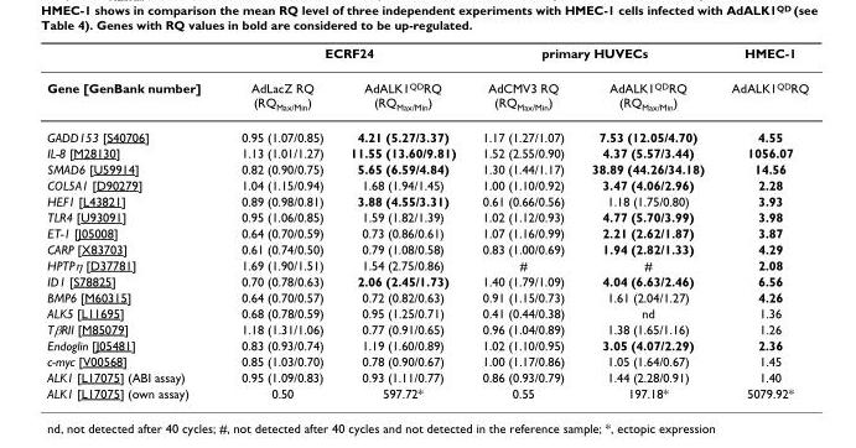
<table><thead><tr><td rowspan="2">Gene [GenBank number]</td><td colspan="2">ECRF24</td><td colspan="2">primary HUVECs</td><td rowspan="2">HMEC-1 AdALK1QDRQ</td></tr><tr><td>AdLacZ RQ (RQMax/Min)</td><td>AdALK1QDRQ (RQMax/Min)</td><td>AdCMV3 RQ (RQMax/Min)</td><td>AdALK1QDRQ (RQMax/Min)</td></tr></thead><tbody><tr><td>GADD153 [S40706]</td><td>0.95 (1.07/0.85)</td><td>4.21 (5.27/3.37)</td><td>1.17 (1.27/1.07)</td><td>7.53 (12.05/4.70)</td><td>4.55</td></tr><tr><td>IL-8 [M28130]</td><td>1.13 (1.01/1.27)</td><td>11.55 (13.60/9.81)</td><td>1.52 (2.55/0.90)</td><td>4.37 (5.57/3.44)</td><td>1056.07</td></tr><tr><td>SMAD6 [U59914]</td><td>0.82 (0.90/0.75)</td><td>5.65 (6.59/4.84)</td><td>1.30 (1.44/1.17)</td><td>38.89 (44.26/34.18)</td><td>14.56</td></tr><tr><td>COL5A1 [D90279]</td><td>1.04 (1.15/0.94)</td><td>1.68 (1.94/1.45)</td><td>1.00 (1.10/0.92)</td><td>3.47 (4.06/2.96)</td><td>2.28</td></tr><tr><td>HEF1 [L43821]</td><td>0.89 (0.98/0.81)</td><td>3.88 (4.55/3.31)</td><td>0.61 (0.66/0.56)</td><td>1.18 (1.75/0.80)</td><td>3.93</td></tr><tr><td>TLR4 [U93091]</td><td>0.95 (1.06/0.85)</td><td>1.59 (1.82/1.39)</td><td>1.02 (1.12/0.93)</td><td>4.77 (5.70/3.99)</td><td>3.98</td></tr><tr><td>ET-1 [J05008]</td><td>0.64 (0.70/0.59)</td><td>0.73 (0.86/0.61)</td><td>1.07 (1.16/0.99)</td><td>2.21 (2.62/1.87)</td><td>3.87</td></tr><tr><td>CARP [X83703]</td><td>0.61 (0.74/0.50)</td><td>0.79 (1.08/0.58)</td><td>0.83 (1.00/0.69)</td><td>1.94 (2.82/1.33)</td><td>4.29</td></tr><tr><td>HPTPη [D37781]</td><td>1.69 (1.90/1.51)</td><td>1.54 (2.75/0.86)</td><td>#</td><td>#</td><td>2.08</td></tr><tr><td>ID1 [S78825]</td><td>0.70 (0.78/0.63)</td><td>2.06 (2.45/1.73)</td><td>1.40 (1.79/1.09)</td><td>4.04 (6.63/2.46)</td><td>6.56</td></tr><tr><td>BMP6 [M60315]</td><td>0.64 (0.70/0.57)</td><td>0.72 (0.82/0.63)</td><td>0.91 (1.15/0.73)</td><td>1.61 (2.04/1.27)</td><td>4.26</td></tr><tr><td>ALK5 [L11695]</td><td>0.68 (0.78/0.59)</td><td>0.95 (1.25/0.71)</td><td>0.41 (0.44/0.38)</td><td>nd</td><td>1.36</td></tr><tr><td>TβRII [M85079]</td><td>1.18 (1.31/1.06)</td><td>0.77 (0.91/0.65)</td><td>0.96 (1.04/0.89)</td><td>1.38 (1.65/1.16)</td><td>1.26</td></tr><tr><td>Endoglin [J05481]</td><td>0.83 (0.93/0.74)</td><td>1.19 (1.60/0.89)</td><td>1.02 (1.10/0.95)</td><td>3.05 (4.07/2.29)</td><td>2.36</td></tr><tr><td>c-myc [V00568]</td><td>0.85 (1.03/0.70)</td><td>0.78 (0.90/0.67)</td><td>1.00 (1.17/0.86)</td><td>1.05 (1.64/0.67)</td><td>1.45</td></tr><tr><td>ALK1 [L17075] (ABI assay)</td><td>0.95 (1.09/0.83)</td><td>0.93 (1.11/0.77)</td><td>0.86 (0.93/0.79)</td><td>1.44 (2.28/0.91)</td><td>1.40</td></tr><tr><td>ALK1 [L17075] (own assay)</td><td>0.50</td><td>597.72*</td><td>0.55</td><td>197.18*</td><td>5079.92*</td></tr></tbody></table>